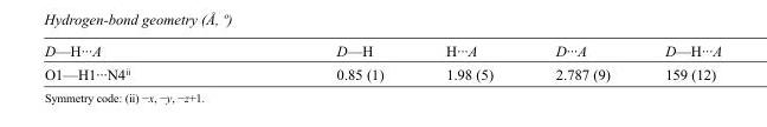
<table><tbody><tr><td>D—H···A</td><td>D—H</td><td>H···A</td><td>D···A</td><td>D—H···A</td></tr><tr><td>O1—H1···N4<sup>ii</sup></td><td>0.85 (1)</td><td>1.98 (5)</td><td>2.787 (9)</td><td>159 (12)</td></tr></tbody></table>